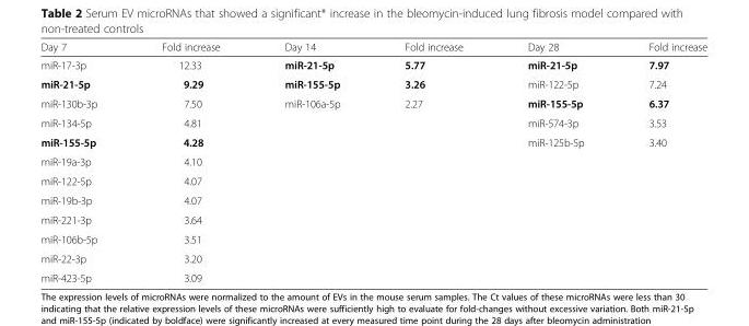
<table><thead><tr><td>Day 7</td><td>Fold increase</td><td>Day 14</td><td>Fold increase</td><td>Day 28</td><td>Fold increase</td></tr></thead><tbody><tr><td>miR-17-3p</td><td>12.33</td><td>miR-21-5p</td><td>5.77</td><td>miR-21-5p</td><td>7.97</td></tr><tr><td>miR-21-5p</td><td>9.29</td><td>miR-155-5p</td><td>3.26</td><td>miR-122-5p</td><td>7.24</td></tr><tr><td>miR-130b-3p</td><td>7.50</td><td>miR-106a-5p</td><td>2.27</td><td>miR-155-5p</td><td>6.37</td></tr><tr><td>miR-134-5p</td><td>4.81</td><td></td><td></td><td>miR-574-3p</td><td>3.53</td></tr><tr><td>miR-155-5p</td><td>4.28</td><td></td><td></td><td>miR-125b-5p</td><td>3.40</td></tr><tr><td>miR-19a-3p</td><td>4.10</td><td></td><td></td><td></td><td></td></tr><tr><td>miR-122-5p</td><td>4.07</td><td></td><td></td><td></td><td></td></tr><tr><td>miR-19b-3p</td><td>4.07</td><td></td><td></td><td></td><td></td></tr><tr><td>miR-221-3p</td><td>3.64</td><td></td><td></td><td></td><td></td></tr><tr><td>miR-106b-5p</td><td>3.51</td><td></td><td></td><td></td><td></td></tr><tr><td>miR-22-3p</td><td>3.20</td><td></td><td></td><td></td><td></td></tr><tr><td>miR-423-5p</td><td>3.09</td><td></td><td></td><td></td><td></td></tr></tbody></table>